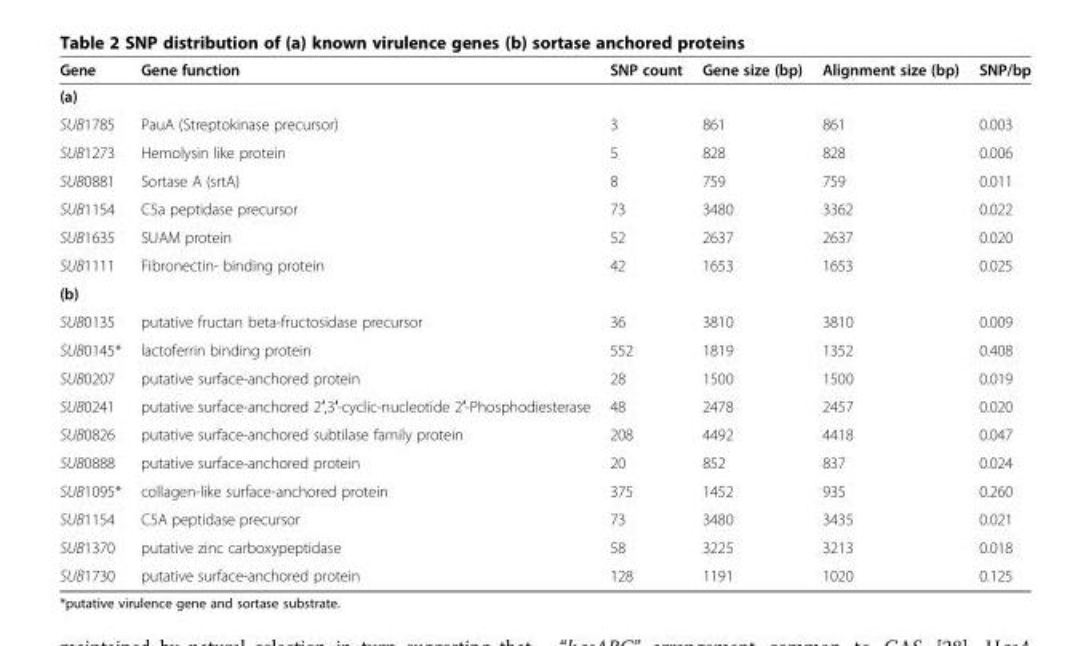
<table><thead><tr><td>Gene</td><td>Gene function</td><td>SNP count</td><td>Gene size (bp)</td><td>Alignment size (bp)</td><td>SNP/bp</td></tr></thead><tbody><tr><td colspan="6">(a)</td></tr><tr><td>SUB1785</td><td>PauA (Streptokinase precursor)</td><td>3</td><td>861</td><td>861</td><td>0.003</td></tr><tr><td>SUB1273</td><td>Hemolysin like protein</td><td>5</td><td>828</td><td>828</td><td>0.006</td></tr><tr><td>SUB0881</td><td>Sortase A (srtA)</td><td>8</td><td>759</td><td>759</td><td>0.011</td></tr><tr><td>SUB1154</td><td>C5a peptidase precursor</td><td>73</td><td>3480</td><td>3362</td><td>0.022</td></tr><tr><td>SUB1635</td><td>SUAM protein</td><td>52</td><td>2637</td><td>2637</td><td>0.020</td></tr><tr><td>SUB1111</td><td>Fibronectin- binding protein</td><td>42</td><td>1653</td><td>1653</td><td>0.025</td></tr><tr><td colspan="6">(b)</td></tr><tr><td>SUB0135</td><td>putative fructan beta-fructosidase precursor</td><td>36</td><td>3810</td><td>3810</td><td>0.009</td></tr><tr><td>SUB0145*</td><td>lactoferrin binding protein</td><td>552</td><td>1819</td><td>1352</td><td>0.408</td></tr><tr><td>SUB0207</td><td>putative surface-anchored protein</td><td>28</td><td>1500</td><td>1500</td><td>0.019</td></tr><tr><td>SUB0241</td><td>putative surface-anchored 2′,3′-cyclic-nucleotide 2′-Phosphodiesterase</td><td>48</td><td>2478</td><td>2457</td><td>0.020</td></tr><tr><td>SUB0826</td><td>putative surface-anchored subtilase family protein</td><td>208</td><td>4492</td><td>4418</td><td>0.047</td></tr><tr><td>SUB0888</td><td>putative surface-anchored protein</td><td>20</td><td>852</td><td>837</td><td>0.024</td></tr><tr><td>SUB1095*</td><td>collagen-like surface-anchored protein</td><td>375</td><td>1452</td><td>935</td><td>0.260</td></tr><tr><td>SUB1154</td><td>C5A peptidase precursor</td><td>73</td><td>3480</td><td>3435</td><td>0.021</td></tr><tr><td>SUB1370</td><td>putative zinc carboxypeptidase</td><td>58</td><td>3225</td><td>3213</td><td>0.018</td></tr><tr><td>SUB1730</td><td>putative surface-anchored protein</td><td>128</td><td>1191</td><td>1020</td><td>0.125</td></tr></tbody></table>